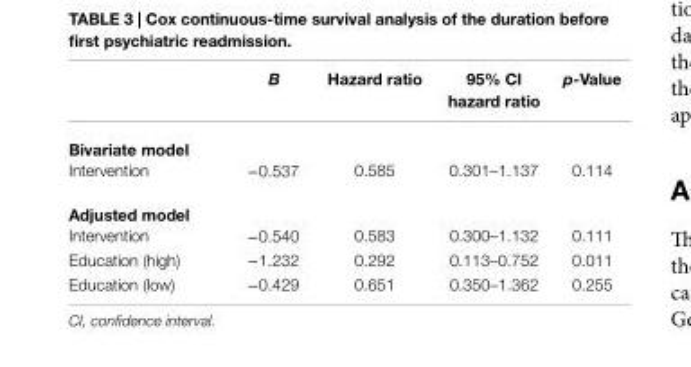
<table><thead><tr><td></td><td>B</td><td>hazard ratio</td><td>95% ci hazard ratio</td><td>p-Value</td></tr></thead><tbody><tr><td colspan="5">Bivariate model</td></tr><tr><td>Intervention</td><td>−0.537</td><td>0.585</td><td>0.301–1.137</td><td>0.114</td></tr><tr><td colspan="5">adjusted model</td></tr><tr><td>Intervention</td><td>−0.540</td><td>0.583</td><td>0.300–1.132</td><td>0.111</td></tr><tr><td>Education (high)</td><td>−1.232</td><td>0.292</td><td>0.113–0.752</td><td>0.011</td></tr><tr><td>Education (low)</td><td>−0.429</td><td>0.651</td><td>0.350–1.362</td><td>0.255</td></tr></tbody></table>